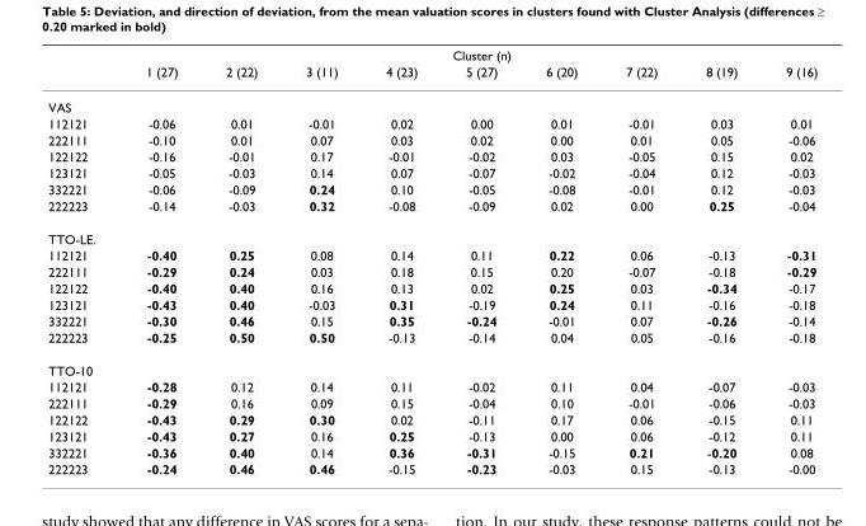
<table><thead><tr><td rowspan="2"></td><td colspan="9">Cluster (n)</td></tr><tr><td>1 (27)</td><td>2 (22)</td><td>3 (11)</td><td>4 (23)</td><td>5 (27)</td><td>6 (20)</td><td>7 (22)</td><td>8 (19)</td><td>9 (16)</td></tr></thead><tbody><tr><td colspan="10">VAS</td></tr><tr><td>112121</td><td>-0.06</td><td>0.01</td><td>-0.01</td><td>0.02</td><td>0.00</td><td>0.01</td><td>-0.01</td><td>0.03</td><td>0.01</td></tr><tr><td>222111</td><td>-0.10</td><td>0.01</td><td>0.07</td><td>0.03</td><td>0.02</td><td>0.00</td><td>0.01</td><td>0.05</td><td>-0.06</td></tr><tr><td>122122</td><td>-0.16</td><td>-0.01</td><td>0.17</td><td>-0.01</td><td>-0.02</td><td>0.03</td><td>-0.05</td><td>0.15</td><td>0.02</td></tr><tr><td>123121</td><td>-0.05</td><td>-0.03</td><td>0.14</td><td>0.07</td><td>-0.07</td><td>-0.02</td><td>-0.04</td><td>0.12</td><td>-0.03</td></tr><tr><td>332221</td><td>-0.06</td><td>-0.09</td><td>0.24</td><td>0.10</td><td>-0.05</td><td>-0.08</td><td>-0.01</td><td>0.12</td><td>-0.03</td></tr><tr><td>222223</td><td>-0.14</td><td>-0.03</td><td>0.32</td><td>-0.08</td><td>-0.09</td><td>0.02</td><td>0.00</td><td>0.25</td><td>-0.04</td></tr><tr><td colspan="10">TTO-LE.</td></tr><tr><td>112121</td><td>-0.40</td><td>0.25</td><td>0.08</td><td>0.14</td><td>0.11</td><td>0.22</td><td>0.06</td><td>-0.13</td><td>-0.31</td></tr><tr><td>222111</td><td>-0.29</td><td>0.24</td><td>0.03</td><td>0.18</td><td>0.15</td><td>0.20</td><td>-0.07</td><td>-0.18</td><td>-0.29</td></tr><tr><td>122122</td><td>-0.40</td><td>0.40</td><td>0.16</td><td>0.13</td><td>0.02</td><td>0.25</td><td>0.03</td><td>-0.34</td><td>-0.17</td></tr><tr><td>123121</td><td>-0.43</td><td>0.40</td><td>-0.03</td><td>0.31</td><td>-0.19</td><td>0.24</td><td>0.11</td><td>-0.16</td><td>-0.18</td></tr><tr><td>332221</td><td>-0.30</td><td>0.46</td><td>0.15</td><td>0.35</td><td>-0.24</td><td>-0.01</td><td>0.07</td><td>-0.26</td><td>-0.14</td></tr><tr><td>222223</td><td>-0.25</td><td>0.50</td><td>0.50</td><td>-0.13</td><td>-0.14</td><td>0.04</td><td>0.05</td><td>-0.16</td><td>-0.18</td></tr><tr><td colspan="10">TTO-10</td></tr><tr><td>112121</td><td>-0.28</td><td>0.12</td><td>0.14</td><td>0.11</td><td>-0.02</td><td>0.11</td><td>0.04</td><td>-0.07</td><td>-0.03</td></tr><tr><td>222111</td><td>-0.29</td><td>0.16</td><td>0.09</td><td>0.15</td><td>-0.04</td><td>0.10</td><td>-0.01</td><td>-0.06</td><td>-0.03</td></tr><tr><td>122122</td><td>-0.43</td><td>0.29</td><td>0.30</td><td>0.02</td><td>-0.11</td><td>0.17</td><td>0.06</td><td>-0.15</td><td>0.11</td></tr><tr><td>123121</td><td>-0.43</td><td>0.27</td><td>0.16</td><td>0.25</td><td>-0.13</td><td>0.00</td><td>0.06</td><td>-0.12</td><td>0.11</td></tr><tr><td>332221</td><td>-0.36</td><td>0.40</td><td>0.14</td><td>0.36</td><td>-0.31</td><td>-0.15</td><td>0.21</td><td>-0.20</td><td>0.08</td></tr><tr><td>222223</td><td>-0.24</td><td>0.46</td><td>0.46</td><td>-0.15</td><td>-0.23</td><td>-0.03</td><td>0.15</td><td>-0.13</td><td>-0.00</td></tr></tbody></table>